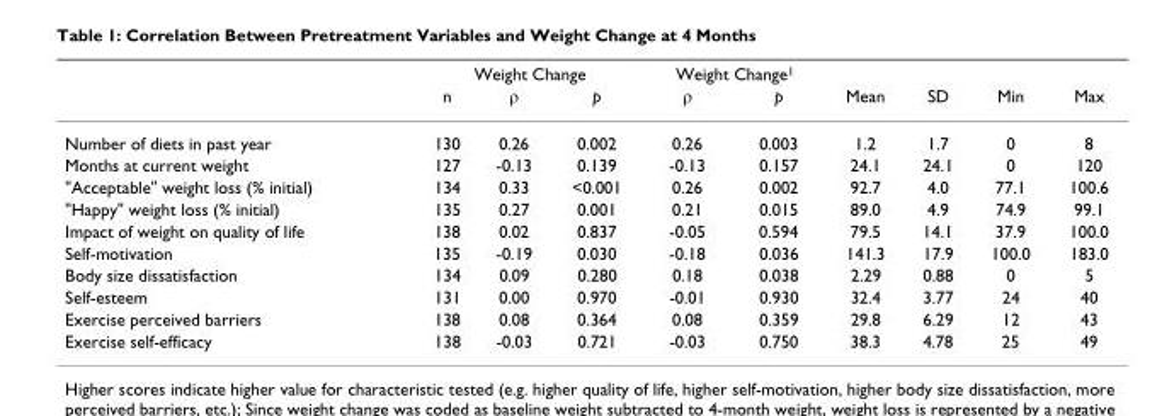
<table><thead><tr><td rowspan="2"></td><td colspan="3">Weight Change</td><td colspan="2">Weight Change<sup>1</sup></td><td rowspan="2">Mean</td><td rowspan="2">SD</td><td rowspan="2">Min</td><td rowspan="2">Max</td></tr><tr><td>n</td><td>ρ</td><td>p</td><td>ρ</td><td>p</td></tr></thead><tbody><tr><td>Number of diets in past year</td><td>130</td><td>0.26</td><td>0.002</td><td>0.26</td><td>0.003</td><td>1.2</td><td>1.7</td><td>0</td><td>8</td></tr><tr><td>Months at current weight</td><td>127</td><td>-0.13</td><td>0.139</td><td>-0.13</td><td>0.157</td><td>24.1</td><td>24.1</td><td>0</td><td>120</td></tr><tr><td>&quot;Acceptable&quot; weight loss (% initial)</td><td>134</td><td>0.33</td><td>&lt;0.001</td><td>0.26</td><td>0.002</td><td>92.7</td><td>4.0</td><td>77.1</td><td>100.6</td></tr><tr><td>&quot;Happy&quot; weight loss (% initial)</td><td>135</td><td>0.27</td><td>0.001</td><td>0.21</td><td>0.015</td><td>89.0</td><td>4.9</td><td>74.9</td><td>99.1</td></tr><tr><td>Impact of weight on quality of life</td><td>138</td><td>0.02</td><td>0.837</td><td>-0.05</td><td>0.594</td><td>79.5</td><td>14.1</td><td>37.9</td><td>100.0</td></tr><tr><td>Self-motivation</td><td>135</td><td>-0.19</td><td>0.030</td><td>-0.18</td><td>0.036</td><td>141.3</td><td>17.9</td><td>100.0</td><td>183.0</td></tr><tr><td>Body size dissatisfaction</td><td>134</td><td>0.09</td><td>0.280</td><td>0.18</td><td>0.038</td><td>2.29</td><td>0.88</td><td>0</td><td>5</td></tr><tr><td>Self-esteem</td><td>131</td><td>0.00</td><td>0.970</td><td>-0.01</td><td>0.930</td><td>32.4</td><td>3.77</td><td>24</td><td>40</td></tr><tr><td>Exercise perceived barriers</td><td>138</td><td>0.08</td><td>0.364</td><td>0.08</td><td>0.359</td><td>29.8</td><td>6.29</td><td>12</td><td>43</td></tr><tr><td>Exercise self-efficacy</td><td>138</td><td>-0.03</td><td>0.721</td><td>-0.03</td><td>0.750</td><td>38.3</td><td>4.78</td><td>25</td><td>49</td></tr></tbody></table>